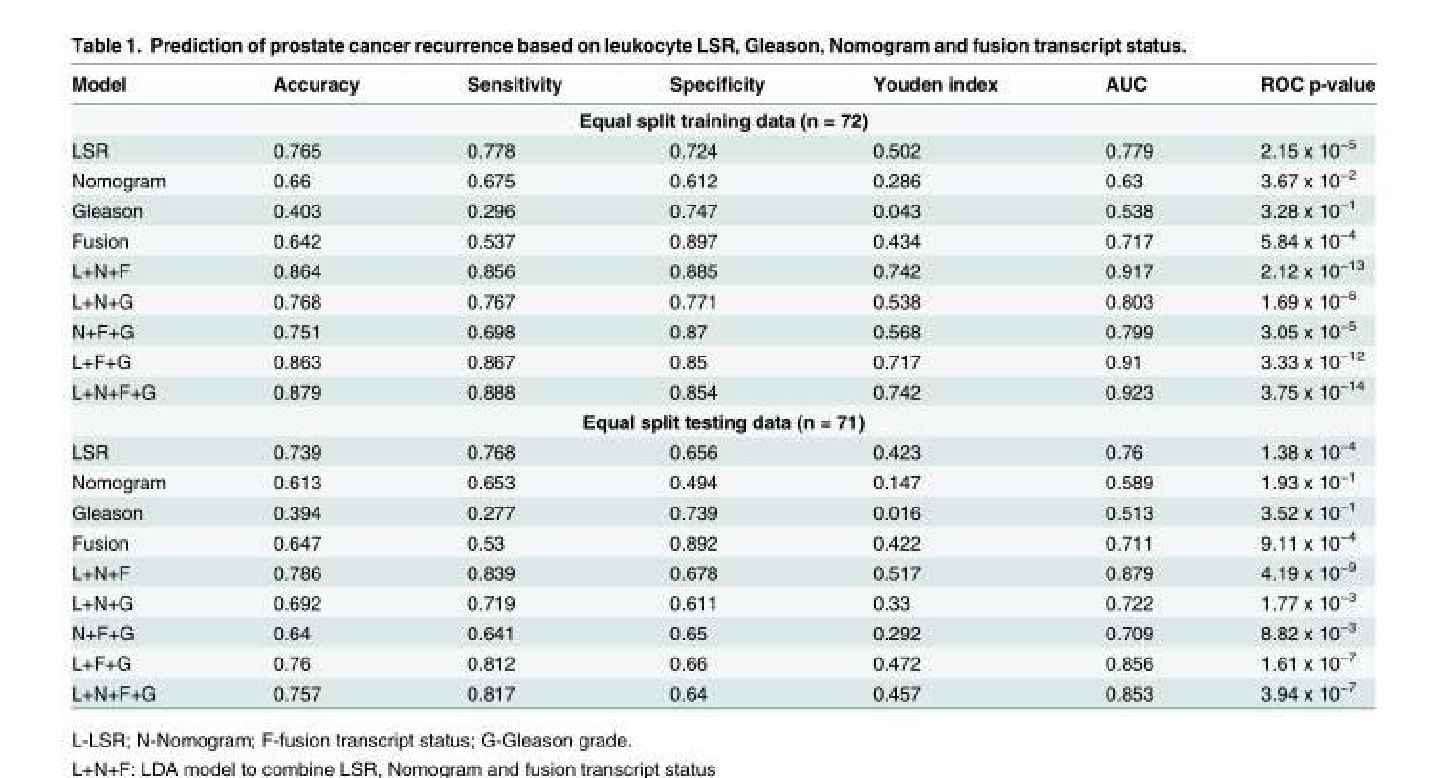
<table><thead><tr><td>Model</td><td>Accuracy</td><td>Sensitivity</td><td>Specificity</td><td>Youden index</td><td>AUC</td><td>ROC p-value</td></tr></thead><tbody><tr><td colspan="7">Equal split training data (n = 72)</td></tr><tr><td>LSR</td><td>0.765</td><td>0.778</td><td>0.724</td><td>0.502</td><td>0.779</td><td>2.15 x 10<sup>−5</sup></td></tr><tr><td>Nomogram</td><td>0.66</td><td>0.675</td><td>0.612</td><td>0.286</td><td>0.63</td><td>3.67 x 10<sup>−2</sup></td></tr><tr><td>Gleason</td><td>0.403</td><td>0.296</td><td>0.747</td><td>0.043</td><td>0.538</td><td>3.28 x 10<sup>−1</sup></td></tr><tr><td>Fusion</td><td>0.642</td><td>0.537</td><td>0.897</td><td>0.434</td><td>0.717</td><td>5.84 x 10<sup>−4</sup></td></tr><tr><td>L+N+F</td><td>0.864</td><td>0.856</td><td>0.885</td><td>0.742</td><td>0.917</td><td>2.12 x 10<sup>−13</sup></td></tr><tr><td>L+N+G</td><td>0.768</td><td>0.767</td><td>0.771</td><td>0.538</td><td>0.803</td><td>1.69 x 10<sup>−6</sup></td></tr><tr><td>N+F+G</td><td>0.751</td><td>0.698</td><td>0.87</td><td>0.568</td><td>0.799</td><td>3.05 x 10<sup>−5</sup></td></tr><tr><td>L+F+G</td><td>0.863</td><td>0.867</td><td>0.85</td><td>0.717</td><td>0.91</td><td>3.33 x 10<sup>−12</sup></td></tr><tr><td>L+N+F+G</td><td>0.879</td><td>0.888</td><td>0.854</td><td>0.742</td><td>0.923</td><td>3.75 x 10<sup>−14</sup></td></tr><tr><td colspan="7">Equal split testing data (n = 71)</td></tr><tr><td>LSR</td><td>0.739</td><td>0.768</td><td>0.656</td><td>0.423</td><td>0.76</td><td>1.38 x 10<sup>−4</sup></td></tr><tr><td>Nomogram</td><td>0.613</td><td>0.653</td><td>0.494</td><td>0.147</td><td>0.589</td><td>1.93 x 10<sup>−1</sup></td></tr><tr><td>Gleason</td><td>0.394</td><td>0.277</td><td>0.739</td><td>0.016</td><td>0.513</td><td>3.52 x 10<sup>−1</sup></td></tr><tr><td>Fusion</td><td>0.647</td><td>0.53</td><td>0.892</td><td>0.422</td><td>0.711</td><td>9.11 x 10<sup>−4</sup></td></tr><tr><td>L+N+F</td><td>0.786</td><td>0.839</td><td>0.678</td><td>0.517</td><td>0.879</td><td>4.19 x 10<sup>−9</sup></td></tr><tr><td>L+N+G</td><td>0.692</td><td>0.719</td><td>0.611</td><td>0.33</td><td>0.722</td><td>1.77 x 10<sup>−3</sup></td></tr><tr><td>N+F+G</td><td>0.64</td><td>0.641</td><td>0.65</td><td>0.292</td><td>0.709</td><td>8.82 x 10<sup>−3</sup></td></tr><tr><td>L+F+G</td><td>0.76</td><td>0.812</td><td>0.66</td><td>0.472</td><td>0.856</td><td>1.61 x 10<sup>−7</sup></td></tr><tr><td>L+N+F+G</td><td>0.757</td><td>0.817</td><td>0.64</td><td>0.457</td><td>0.853</td><td>3.94 x 10<sup>−7</sup></td></tr></tbody></table>